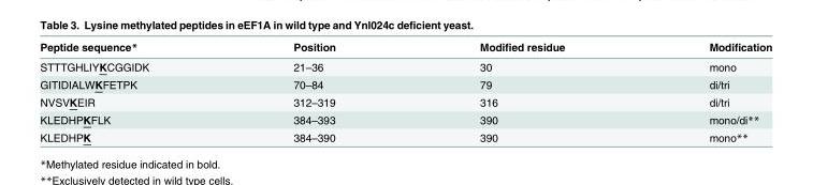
<table><thead><tr><td>Peptide sequence*</td><td>Position</td><td>Modified residue</td><td>Modification</td></tr></thead><tbody><tr><td>STTTGHLIYKCGGIDK</td><td>21–36</td><td>30</td><td>mono</td></tr><tr><td>GITIDIALWKFETPK</td><td>70–84</td><td>79</td><td>di/tri</td></tr><tr><td>NVSVKEIR</td><td>312–319</td><td>316</td><td>di/tri</td></tr><tr><td>KLEDHPKFLK</td><td>384–393</td><td>390</td><td>mono/di**</td></tr><tr><td>KLEDHPK</td><td>384–390</td><td>390</td><td>mono**</td></tr></tbody></table>